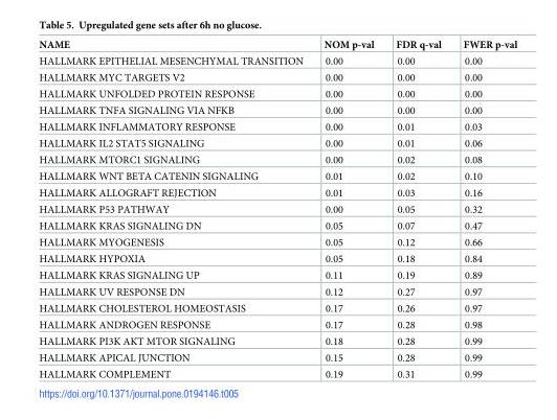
<table><thead><tr><td>NAME</td><td>NOM p-val</td><td>FDR q-val</td><td>FWER p-val</td></tr></thead><tbody><tr><td>HALLMARK EPITHELIAL MESENCHYMAL TRANSITION</td><td>0.00</td><td>0.00</td><td>0.00</td></tr><tr><td>HALLMARK MYC TARGETS V2</td><td>0.00</td><td>0.00</td><td>0.00</td></tr><tr><td>HALLMARK UNFOLDED PROTEIN RESPONSE</td><td>0.00</td><td>0.00</td><td>0.00</td></tr><tr><td>HALLMARK TNFA SIGNALING VIA NFKB</td><td>0.00</td><td>0.00</td><td>0.00</td></tr><tr><td>HALLMARK INFLAMMATORY RESPONSE</td><td>0.00</td><td>0.01</td><td>0.03</td></tr><tr><td>HALLMARK IL2 STAT5 SIGNALING</td><td>0.00</td><td>0.01</td><td>0.06</td></tr><tr><td>HALLMARK MTORC1 SIGNALING</td><td>0.00</td><td>0.02</td><td>0.08</td></tr><tr><td>HALLMARK WNT BETA CATENIN SIGNALING</td><td>0.01</td><td>0.02</td><td>0.10</td></tr><tr><td>HALLMARK ALLOGRAFT REJECTION</td><td>0.01</td><td>0.03</td><td>0.16</td></tr><tr><td>HALLMARK P53 PATHWAY</td><td>0.00</td><td>0.05</td><td>0.32</td></tr><tr><td>HALLMARK KRAS SIGNALING DN</td><td>0.05</td><td>0.07</td><td>0.47</td></tr><tr><td>HALLMARK MYOGENESIS</td><td>0.05</td><td>0.12</td><td>0.66</td></tr><tr><td>HALLMARK HYPOXIA</td><td>0.05</td><td>0.18</td><td>0.84</td></tr><tr><td>HALLMARK KRAS SIGNALING UP</td><td>0.11</td><td>0.19</td><td>0.89</td></tr><tr><td>HALLMARK UV RESPONSE DN</td><td>0.12</td><td>0.27</td><td>0.97</td></tr><tr><td>HALLMARK CHOLESTEROL HOMEOSTASIS</td><td>0.17</td><td>0.26</td><td>0.97</td></tr><tr><td>HALLMARK ANDROGEN RESPONSE</td><td>0.17</td><td>0.28</td><td>0.98</td></tr><tr><td>HALLMARK PI3K AKT MTOR SIGNALING</td><td>0.18</td><td>0.28</td><td>0.99</td></tr><tr><td>HALLMARK APICAL JUNCTION</td><td>0.15</td><td>0.28</td><td>0.99</td></tr><tr><td>HALLMARK COMPLEMENT</td><td>0.19</td><td>0.31</td><td>0.99</td></tr></tbody></table>